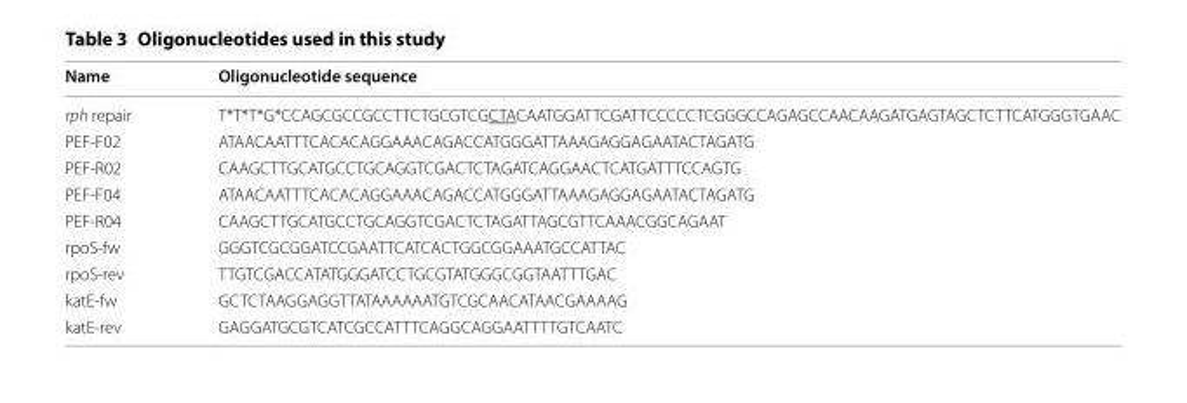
<table><thead><tr><td>Name</td><td>Oligonucleotide sequence</td></tr></thead><tbody><tr><td>rph repair</td><td>T*T*T*G*CCAGCGCCGCCTTCTGCGTCGCTACAATGGATTCGATTCCCCCTCGGGCCAGAGCCAACAAGATGAGTAGCTCTTCATGGGTGAAC</td></tr><tr><td>PEF-F02</td><td>ATAACAATTTCACACAGGAAACAGACCATGGGATTAAAGAGGAGAATACTAGATG</td></tr><tr><td>PEF-R02</td><td>CAAGCTTGCATGCCTGCAGGTCGACTCTAGATCAGGAACTCATGATTTCCAGTG</td></tr><tr><td>PEF-F04</td><td>ATAACAATTTCACACAGGAAACAGACCATGGGATTAAAGAGGAGAATACTAGATG</td></tr><tr><td>PEF-R04</td><td>CAAGCTTGCATGCCTGCAGGTCGACTCTAGATTAGCGTTCAAACGGCAGAAT</td></tr><tr><td>rpoS-fw</td><td>GGGTCGCGGATCCGAATTCATCACTGGCGGAAATGCCATTAC</td></tr><tr><td>rpoS-rev</td><td>TTGTCGACCATATGGGATCCTGCGTATGGGCGGTAATTTGAC</td></tr><tr><td>katE-fw</td><td>GCTCTAAGGAGGTTATAAAAAATGTCGCAACATAACGAAAAG</td></tr><tr><td>katE-rev</td><td>GAGGATGCGTCATCGCCATTTCAGGCAGGAATTTTGTCAATC</td></tr></tbody></table>